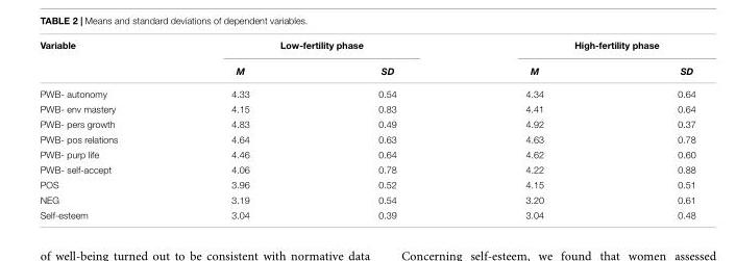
<table><thead><tr><td rowspan="2">Variable</td><td colspan="2">Low-fertility phase</td><td colspan="2">High-fertility phase</td></tr><tr><td>M</td><td>SD</td><td>M</td><td>SD</td></tr></thead><tbody><tr><td>PWB- autonomy</td><td>4.33</td><td>0.54</td><td>4.34</td><td>0.64</td></tr><tr><td>PWB- env mastery</td><td>4.15</td><td>0.83</td><td>4.41</td><td>0.64</td></tr><tr><td>PWB- pers growth</td><td>4.83</td><td>0.49</td><td>4.92</td><td>0.37</td></tr><tr><td>PWB- pos relations</td><td>4.64</td><td>0.63</td><td>4.63</td><td>0.78</td></tr><tr><td>PWB- purp life</td><td>4.46</td><td>0.64</td><td>4.62</td><td>0.60</td></tr><tr><td>PWB- self-accept</td><td>4.06</td><td>0.78</td><td>4.22</td><td>0.88</td></tr><tr><td>POS</td><td>3.96</td><td>0.52</td><td>4.15</td><td>0.51</td></tr><tr><td>NEG</td><td>3.19</td><td>0.54</td><td>3.20</td><td>0.61</td></tr><tr><td>Self-esteem</td><td>3.04</td><td>0.39</td><td>3.04</td><td>0.48</td></tr></tbody></table>